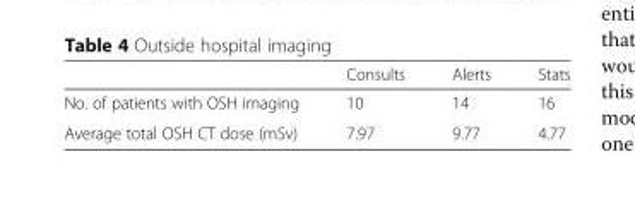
<table><thead><tr><td></td><td>Consults</td><td>Alerts</td><td>Stats</td></tr></thead><tbody><tr><td>No. of patients with OSH imaging</td><td>10</td><td>14</td><td>16</td></tr><tr><td>Average total OSH CT dose (mSv)</td><td>7.97</td><td>9.77</td><td>4.77</td></tr></tbody></table>